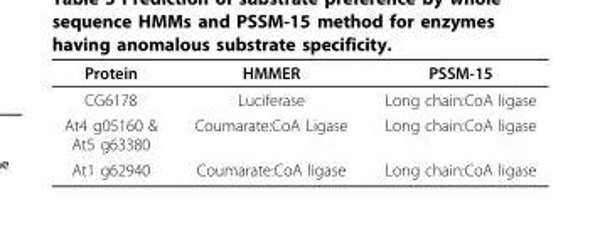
<table><thead><tr><td>Protein</td><td>HMMER</td><td>PSSM-15</td></tr></thead><tbody><tr><td>CG6178</td><td>Luciferase</td><td>Long chain:CoA ligase</td></tr><tr><td>At4 g05160 &amp; At5 g63380</td><td>Coumarate:CoA Ligase</td><td>Long chain:CoA ligase</td></tr><tr><td>At1 g62940</td><td>Coumarate:CoA ligase</td><td>Long chain:CoA ligase</td></tr></tbody></table>